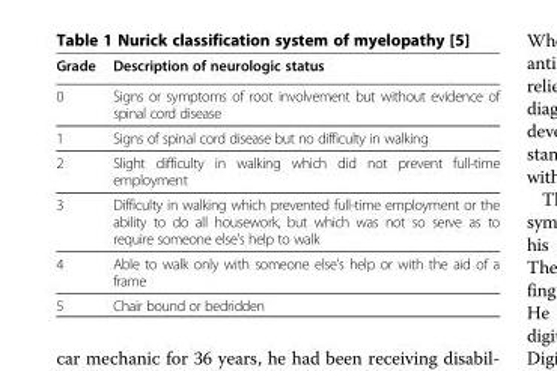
<table><thead><tr><td>Grade</td><td>Description of neurologic status</td></tr></thead><tbody><tr><td>0</td><td>Signs or symptoms of root involvement but without evidence of spinal cord disease</td></tr><tr><td>1</td><td>Signs of spinal cord disease but no difficulty in walking</td></tr><tr><td>2</td><td>Slight difficulty in walking which did not prevent full-time employment</td></tr><tr><td>3</td><td>Difficulty in walking which prevented full-time employment or the ability to do all housework, but which was not so serve as to require someone else’s help to walk</td></tr><tr><td>4</td><td>Able to walk only with someone else’s help or with the aid of a frame</td></tr><tr><td>5</td><td>Chair bound or bedridden</td></tr></tbody></table>